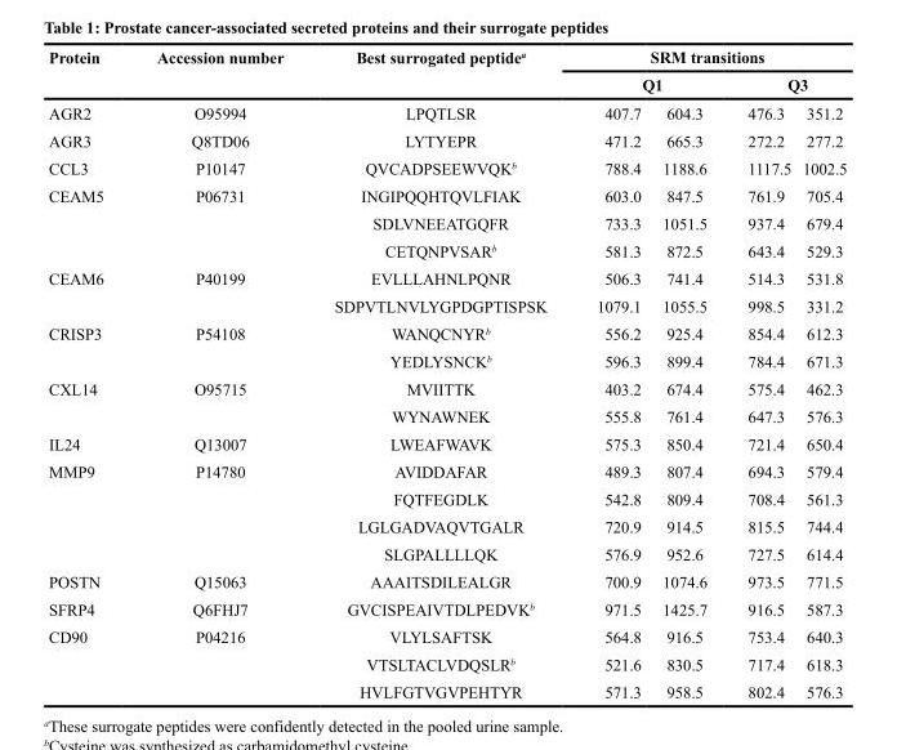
<table><thead><tr><td rowspan="3">Protein AGR2</td><td rowspan="3">Accession number O95994</td><td rowspan="3">Best surrogated peptide<sup>a</sup> LPQTLSR</td><td colspan="4">SRM transitions</td></tr><tr><td colspan="2">Q1</td><td colspan="2">Q3</td></tr><tr><td>407.7</td><td>604.3</td><td>476.3</td><td>351.2</td></tr></thead><tbody><tr><td>AGR3</td><td>Q8TD06</td><td>LYTYEPR</td><td>471.2</td><td>665.3</td><td>272.2</td><td>277.2</td></tr><tr><td>CCL3</td><td>P10147</td><td>QVCADPSEEWVQK<sup>b</sup></td><td>788.4</td><td>1188.6</td><td>1117.5</td><td>1002.5</td></tr><tr><td rowspan="3">CEAM5</td><td>P06731</td><td>INGIPQQHTQVLFIAK</td><td>603.0</td><td>847.5</td><td>761.9</td><td>705.4</td></tr><tr><td></td><td>SDLVNEEATGQFR</td><td>733.3</td><td>1051.5</td><td>937.4</td><td>679.4</td></tr><tr><td></td><td>CETQNPVSAR<sup>b</sup></td><td>581.3</td><td>872.5</td><td>643.4</td><td>529.3</td></tr><tr><td rowspan="2">CEAM6</td><td>P40199</td><td>EVLLLAHNLPQNR</td><td>506.3</td><td>741.4</td><td>514.3</td><td>531.8</td></tr><tr><td></td><td>SDPVTLNVLYGPDGPTISPSK</td><td>1079.1</td><td>1055.5</td><td>998.5</td><td>331.2</td></tr><tr><td rowspan="2">CRISP3</td><td>P54108</td><td>WANQCNYR<sup>b</sup></td><td>556.2</td><td>925.4</td><td>854.4</td><td>612.3</td></tr><tr><td></td><td>YEDLYSNCK<sup>b</sup></td><td>596.3</td><td>899.4</td><td>784.4</td><td>671.3</td></tr><tr><td rowspan="2">CXL14</td><td>O95715</td><td>MVIITTK</td><td>403.2</td><td>674.4</td><td>575.4</td><td>462.3</td></tr><tr><td></td><td>WYNAWNEK</td><td>555.8</td><td>761.4</td><td>647.3</td><td>576.3</td></tr><tr><td>IL24</td><td>Q13007</td><td>LWEAFWAVK</td><td>575.3</td><td>850.4</td><td>721.4</td><td>650.4</td></tr><tr><td rowspan="4">MMP9</td><td>P14780</td><td>AVIDDAFAR</td><td>489.3</td><td>807.4</td><td>694.3</td><td>579.4</td></tr><tr><td></td><td>FQTFEGDLK</td><td>542.8</td><td>809.4</td><td>708.4</td><td>561.3</td></tr><tr><td></td><td>LGLGADVAQVTGALR</td><td>720.9</td><td>914.5</td><td>815.5</td><td>744.4</td></tr><tr><td></td><td>SLGPALLLLQK</td><td>576.9</td><td>952.6</td><td>727.5</td><td>614.4</td></tr><tr><td>POSTN</td><td>Q15063</td><td>AAAITSDILEALGR</td><td>700.9</td><td>1074.6</td><td>973.5</td><td>771.5</td></tr><tr><td>SFRP4</td><td>Q6FHJ7</td><td>GVCISPEAIVTDLPEDVK<sup>b</sup></td><td>971.5</td><td>1425.7</td><td>916.5</td><td>587.3</td></tr><tr><td rowspan="3">CD90</td><td>P04216</td><td>VLYLSAFTSK</td><td>564.8</td><td>916.5</td><td>753.4</td><td>640.3</td></tr><tr><td></td><td>VTSLTACLVDQSLR<sup>b</sup></td><td>521.6</td><td>830.5</td><td>717.4</td><td>618.3</td></tr><tr><td></td><td>HVLFGTVGVPEHTYR</td><td>571.3</td><td>958.5</td><td>802.4</td><td>576.3</td></tr></tbody></table>